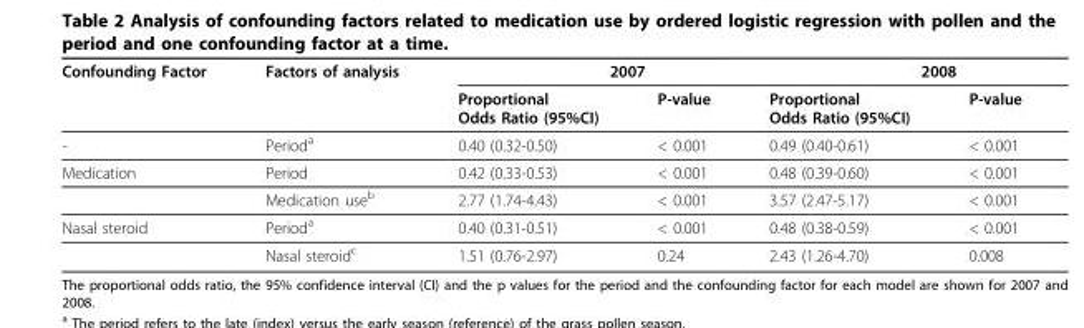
<table><thead><tr><td rowspan="2">Confounding Factor</td><td rowspan="2">Factors of analysis</td><td rowspan="2">2007 Proportional Odds Ratio (95%CI)</td><td rowspan="2">P-value</td><td rowspan="2">2008 Proportional Odds Ratio (95%CI)</td><td rowspan="2">P-value</td></tr><tr></tr></thead><tbody><tr><td>-</td><td>Period<sup>a</sup></td><td>0.40 (0.32-0.50)</td><td>&lt; 0.001</td><td>0.49 (0.40-0.61)</td><td>&lt; 0.001</td></tr><tr><td rowspan="2">Medication</td><td>Period</td><td>0.42 (0.33-0.53)</td><td>&lt; 0.001</td><td>0.48 (0.39-0.60)</td><td>&lt; 0.001</td></tr><tr><td>Medication use<sup>b</sup></td><td>2.77 (1.74-4.43)</td><td>&lt; 0.001</td><td>3.57 (2.47-5.17)</td><td>&lt; 0.001</td></tr><tr><td rowspan="2">Nasal steroid</td><td>Period<sup>a</sup></td><td>0.40 (0.31-0.51)</td><td>&lt; 0.001</td><td>0.48 (0.38-0.59)</td><td>&lt; 0.001</td></tr><tr><td>Nasal steroid<sup>c</sup></td><td>1.51 (0.76-2.97)</td><td>0.24</td><td>2.43 (1.26-4.70)</td><td>0.008</td></tr></tbody></table>